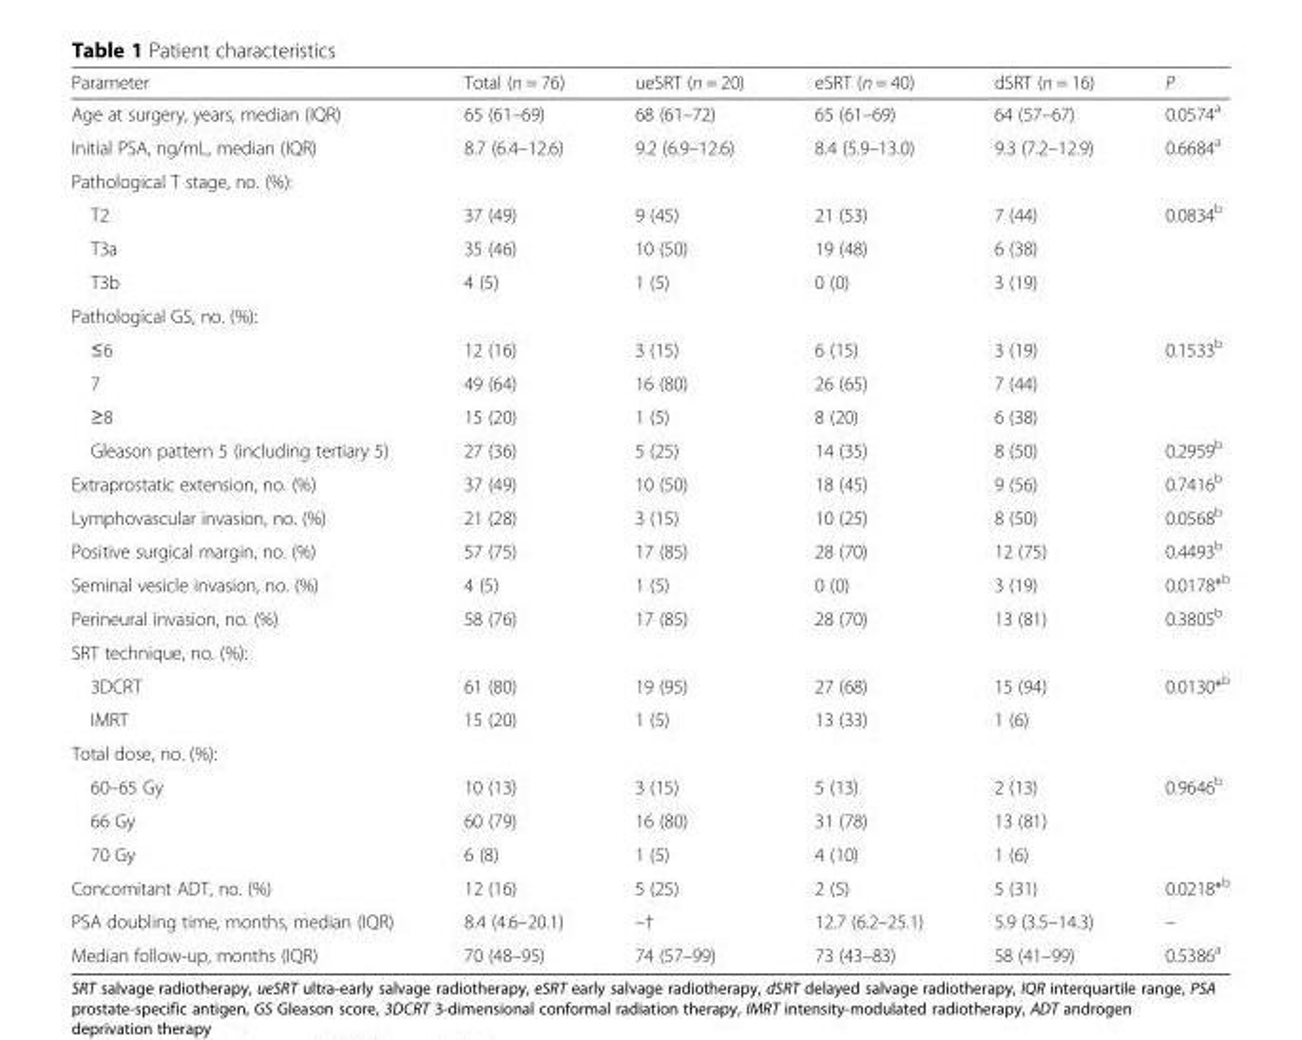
<table><thead><tr><td>Parameter</td><td>Total (n = 76)</td><td>ueSRT (n = 20)</td><td>eSRT (n = 40)</td><td>dSRT (n = 16)</td><td>P</td></tr></thead><tbody><tr><td>Age at surgery, years, median (IQR)</td><td>65 (61–69)</td><td>68 (61–72)</td><td>65 (61–69)</td><td>64 (57–67)</td><td>0.0574<sup>a</sup></td></tr><tr><td>Initial PSA, ng/mL, median (IQR)</td><td>8.7 (6.4–12.6)</td><td>9.2 (6.9–12.6)</td><td>8.4 (5.9–13.0)</td><td>9.3 (7.2–12.9)</td><td>0.6684<sup>a</sup></td></tr><tr><td colspan="6">Pathological T stage, no. (%):</td></tr><tr><td>T2</td><td>37 (49)</td><td>9 (45)</td><td>21 (53)</td><td>7 (44)</td><td>0.0834<sup>b</sup></td></tr><tr><td>T3a</td><td>35 (46)</td><td>10 (50)</td><td>19 (48)</td><td>6 (38)</td><td></td></tr><tr><td>T3b</td><td>4 (5)</td><td>1 (5)</td><td>0 (0)</td><td>3 (19)</td><td></td></tr><tr><td colspan="6">Pathological GS, no. (%):</td></tr><tr><td>≤6</td><td>12 (16)</td><td>3 (15)</td><td>6 (15)</td><td>3 (19)</td><td>0.1533<sup>b</sup></td></tr><tr><td>7</td><td>49 (64)</td><td>16 (80)</td><td>26 (65)</td><td>7 (44)</td><td></td></tr><tr><td>≥8</td><td>15 (20)</td><td>1 (5)</td><td>8 (20)</td><td>6 (38)</td><td></td></tr><tr><td>Gleason pattern 5 (including tertiary 5)</td><td>27 (36)</td><td>5 (25)</td><td>14 (35)</td><td>8 (50)</td><td>0.2959<sup>b</sup></td></tr><tr><td>Extraprostatic extension, no. (%)</td><td>37 (49)</td><td>10 (50)</td><td>18 (45)</td><td>9 (56)</td><td>0.7416<sup>b</sup></td></tr><tr><td>Lymphovascular invasion, no. (%)</td><td>21 (28)</td><td>3 (15)</td><td>10 (25)</td><td>8 (50)</td><td>0.0568<sup>b</sup></td></tr><tr><td>Positive surgical margin, no. (%)</td><td>57 (75)</td><td>17 (85)</td><td>28 (70)</td><td>12 (75)</td><td>0.4493<sup>b</sup></td></tr><tr><td>Seminal vesicle invasion, no. (%)</td><td>4 (5)</td><td>1 (5)</td><td>0 (0)</td><td>3 (19)</td><td>0.0178*<sup>b</sup></td></tr><tr><td>Perineural invasion, no. (%)</td><td>58 (76)</td><td>17 (85)</td><td>28 (70)</td><td>13 (81)</td><td>0.3805<sup>b</sup></td></tr><tr><td colspan="6">SRT technique, no. (%):</td></tr><tr><td>3DCRT</td><td>61 (80)</td><td>19 (95)</td><td>27 (68)</td><td>15 (94)</td><td>0.0130*<sup>b</sup></td></tr><tr><td>IMRT</td><td>15 (20)</td><td>1 (5)</td><td>13 (33)</td><td>1 (6)</td><td></td></tr><tr><td colspan="6">Total dose, no. (%):</td></tr><tr><td>60–65 Gy</td><td>10 (13)</td><td>3 (15)</td><td>5 (13)</td><td>2 (13)</td><td>0.9646<sup>b</sup></td></tr><tr><td>66 Gy</td><td>60 (79)</td><td>16 (80)</td><td>31 (78)</td><td>13 (81)</td><td></td></tr><tr><td>70 Gy</td><td>6 (8)</td><td>1 (5)</td><td>4 (10)</td><td>1 (6)</td><td></td></tr><tr><td>Concomitant ADT, no. (%)</td><td>12 (16)</td><td>5 (25)</td><td>2 (5)</td><td>5 (31)</td><td>0.0218*<sup>b</sup></td></tr><tr><td>PSA doubling time, months, median (IQR)</td><td>8.4 (4.6–20.1)</td><td>–†</td><td>12.7 (6.2–25.1)</td><td>5.9 (3.5–14.3)</td><td>–</td></tr><tr><td>Median follow-up, months (IQR)</td><td>70 (48–95)</td><td>74 (57–99)</td><td>73 (43–83)</td><td>58 (41–99)</td><td>0.5386<sup>a</sup></td></tr></tbody></table>